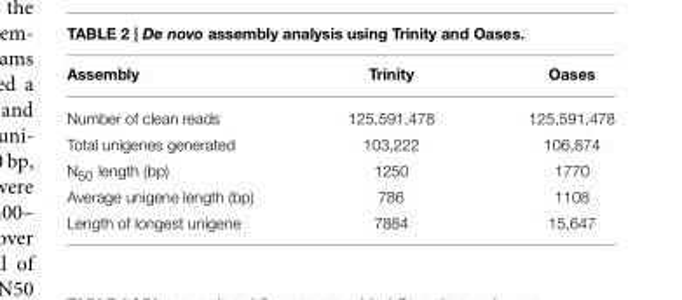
<table><thead><tr><td>Assembly</td><td>Trinity</td><td>Oases</td></tr></thead><tbody><tr><td>Number of clean reads</td><td>125,591,478</td><td>125,591,478</td></tr><tr><td>Total unigenes generated</td><td>103,222</td><td>106,874</td></tr><tr><td>N<sub>50</sub> length (bp)</td><td>1250</td><td>1770</td></tr><tr><td>Average unigene length (bp)</td><td>786</td><td>1108</td></tr><tr><td>Length of longest unigene</td><td>7884</td><td>15,647</td></tr></tbody></table>